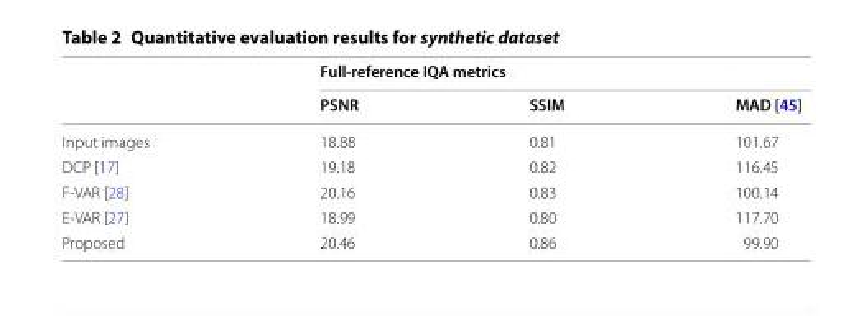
<table><thead><tr><td rowspan="2"></td><td colspan="3">Full-reference IQA metrics</td></tr><tr><td>PSNR</td><td>SSIM</td><td>MAD [45]</td></tr></thead><tbody><tr><td>Input images</td><td>18.88</td><td>0.81</td><td>101.67</td></tr><tr><td>DCP [17]</td><td>19.18</td><td>0.82</td><td>116.45</td></tr><tr><td>F-VAR [28]</td><td>20.16</td><td>0.83</td><td>100.14</td></tr><tr><td>E-VAR [27]</td><td>18.99</td><td>0.80</td><td>117.70</td></tr><tr><td>Proposed</td><td>20.46</td><td>0.86</td><td>99.90</td></tr></tbody></table>